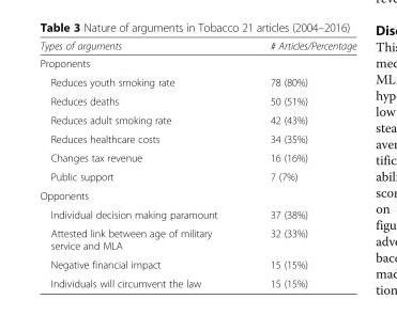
<table><thead><tr><td>Types of arguments</td><td># Articles/Percentage</td></tr></thead><tbody><tr><td colspan="2">Proponents</td></tr><tr><td>Reduces youth smoking rate</td><td>78 (80%)</td></tr><tr><td>Reduces deaths</td><td>50 (51%)</td></tr><tr><td>Reduces adult smoking rate</td><td>42 (43%)</td></tr><tr><td>Reduces healthcare costs</td><td>34 (35%)</td></tr><tr><td>Changes tax revenue</td><td>16 (16%)</td></tr><tr><td>Public support</td><td>7 (7%)</td></tr><tr><td colspan="2">Opponents</td></tr><tr><td>Individual decision making paramount</td><td>37 (38%)</td></tr><tr><td>Attested link between age of military service and MLA</td><td>32 (33%)</td></tr><tr><td>Negative financial impact</td><td>15 (15%)</td></tr><tr><td>Individuals will circumvent the law</td><td>15 (15%)</td></tr></tbody></table>